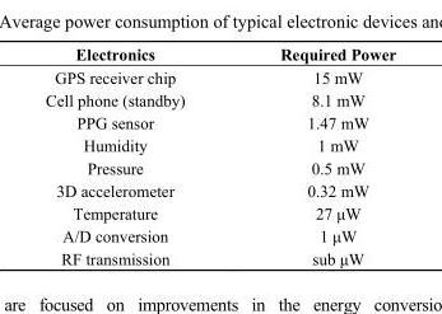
<table><thead><tr><td>Electronics</td><td>Required Power</td></tr></thead><tbody><tr><td>GPS receiver chip</td><td>15 mW</td></tr><tr><td>Cell phone (standby)</td><td>8.1 mW</td></tr><tr><td>PPG sensor</td><td>1.47 mW</td></tr><tr><td>Humidity</td><td>1 mW</td></tr><tr><td>Pressure</td><td>0.5 mW</td></tr><tr><td>3D accelerometer</td><td>0.32 mW</td></tr><tr><td>Temperature</td><td>27 μW</td></tr><tr><td>A/D conversion</td><td>1 μW</td></tr><tr><td>RF transmission</td><td>sub μW</td></tr></tbody></table>